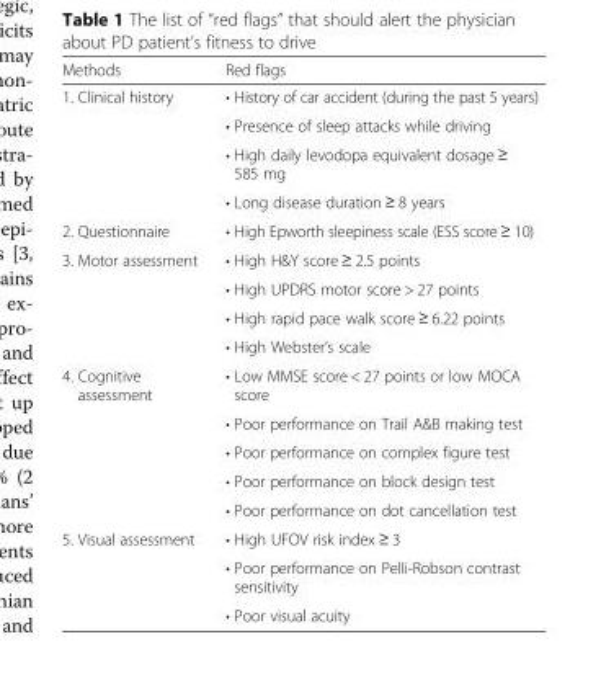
<table><thead><tr><td>Methods</td><td>Red flags</td></tr></thead><tbody><tr><td rowspan="4">1. Clinical history</td><td>• History of car accident (during the past 5 years)</td></tr><tr><td>• Presence of sleep attacks while driving</td></tr><tr><td>• High daily levodopa equivalent dosage ≥ 585 mg</td></tr><tr><td>• Long disease duration ≥ 8 years</td></tr><tr><td>2. Questionnaire</td><td>• High Epworth sleepiness scale (ESS score ≥ 10)</td></tr><tr><td rowspan="4">3. Motor assessment</td><td>• High H&amp;Y score ≥ 2.5 points</td></tr><tr><td>• High UPDRS motor score &gt; 27 points</td></tr><tr><td>• High rapid pace walk score ≥ 6.22 points</td></tr><tr><td>• High Webster’s scale</td></tr><tr><td rowspan="5">4. Cognitive assessment</td><td>• Low MMSE score &lt; 27 points or low MOCA score</td></tr><tr><td>• Poor performance on Trail A&amp;B making test</td></tr><tr><td>• Poor performance on complex figure test</td></tr><tr><td>• Poor performance on block design test</td></tr><tr><td>• Poor performance on dot cancellation test</td></tr><tr><td rowspan="3">5. Visual assessment</td><td>• High UFOV risk index ≥ 3</td></tr><tr><td>• Poor performance on Pelli-Robson contrast sensitivity</td></tr><tr><td>• Poor visual acuity</td></tr></tbody></table>